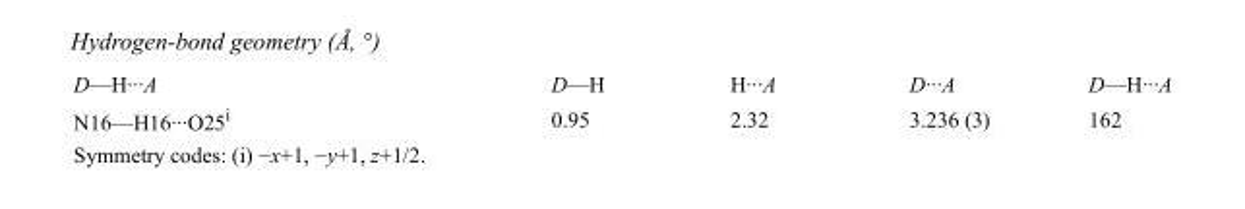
<table><tbody><tr><td>D—H···A</td><td>D—H</td><td>H···A</td><td>D···A</td><td>D—H···A</td></tr><tr><td>N16—H16···O25<sup>i</sup></td><td>0.95</td><td>2.32</td><td>3.236 (3)</td><td>162</td></tr></tbody></table>